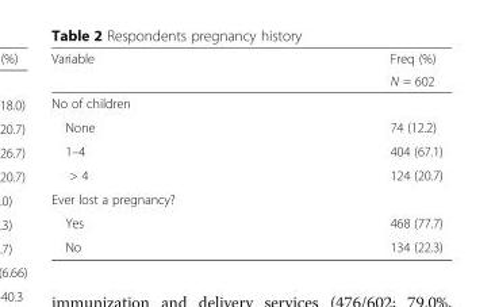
<table><thead><tr><td rowspan="2">Variable</td><td rowspan="2">Freq (%) N = 602</td></tr><tr></tr></thead><tbody><tr><td colspan="2">No of children</td></tr><tr><td>None</td><td>74 (12.2)</td></tr><tr><td>1–4</td><td>404 (67.1)</td></tr><tr><td>&gt; 4</td><td>124 (20.7)</td></tr><tr><td colspan="2">Ever lost a pregnancy?</td></tr><tr><td>Yes</td><td>468 (77.7)</td></tr><tr><td>No</td><td>134 (22.3)</td></tr></tbody></table>